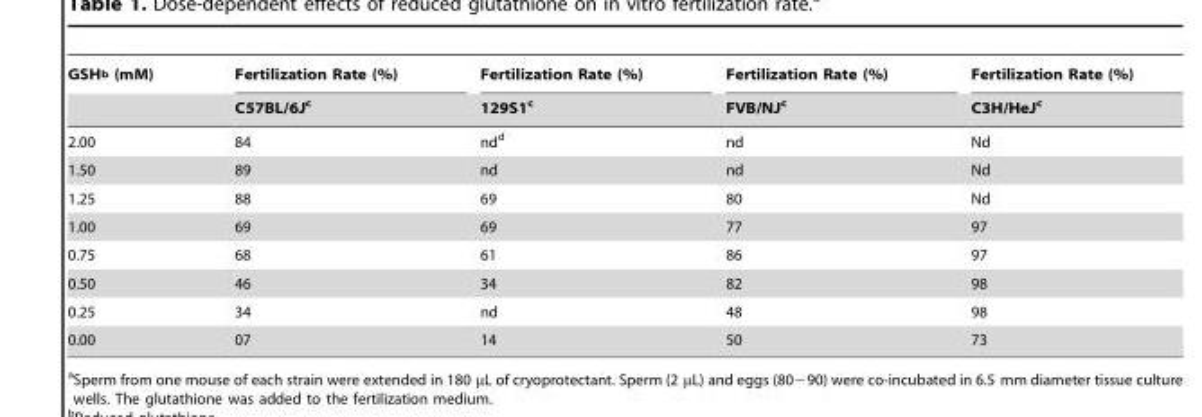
<table><thead><tr><td rowspan="2">GSH<sup>b</sup> (mM)</td><td rowspan="2">Fertilization Rate (%) C57BL/6J<sup>c</sup></td><td rowspan="2">Fertilization Rate (%) 129S1<sup>c</sup></td><td rowspan="2">Fertilization Rate (%) FVB/NJ<sup>c</sup></td><td rowspan="2">Fertilization Rate (%) C3H/HeJ<sup>c</sup></td></tr><tr></tr></thead><tbody><tr><td>2.00</td><td>84</td><td>nd<sup>d</sup></td><td>nd</td><td>Nd</td></tr><tr><td>1.50</td><td>89</td><td>nd</td><td>nd</td><td>Nd</td></tr><tr><td>1.25</td><td>88</td><td>69</td><td>80</td><td>Nd</td></tr><tr><td>1.00</td><td>69</td><td>69</td><td>77</td><td>97</td></tr><tr><td>0.75</td><td>68</td><td>61</td><td>86</td><td>97</td></tr><tr><td>0.50</td><td>46</td><td>34</td><td>82</td><td>98</td></tr><tr><td>0.25</td><td>34</td><td>nd</td><td>48</td><td>98</td></tr><tr><td>0.00</td><td>07</td><td>14</td><td>50</td><td>73</td></tr></tbody></table>